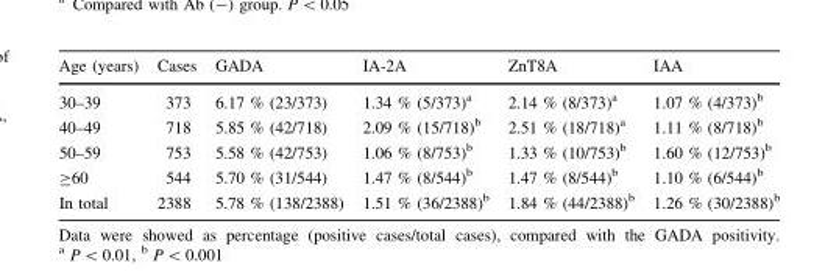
<table><thead><tr><td>Age (years)</td><td>Cases</td><td>GADA</td><td>IA-2A</td><td>ZnT8A</td><td>IAA</td></tr></thead><tbody><tr><td>30–39</td><td>373</td><td>6.17 % (23/373)</td><td>1.34 % (5/373)<sup>a</sup></td><td>2.14 % (8/373)<sup>a</sup></td><td>1.07 % (4/373)<sup>b</sup></td></tr><tr><td>40–49</td><td>718</td><td>5.85 % (42/718)</td><td>2.09 % (15/718)<sup>b</sup></td><td>2.51 % (18/718)<sup>a</sup></td><td>1.11 % (8/718)<sup>b</sup></td></tr><tr><td>50–59</td><td>753</td><td>5.58 % (42/753)</td><td>1.06 % (8/753)<sup>b</sup></td><td>1.33 % (10/753)<sup>b</sup></td><td>1.60 % (12/753)<sup>b</sup></td></tr><tr><td>≥60</td><td>544</td><td>5.70 % (31/544)</td><td>1.47 % (8/544)<sup>b</sup></td><td>1.47 % (8/544)<sup>b</sup></td><td>1.10 % (6/544)<sup>b</sup></td></tr><tr><td>In total</td><td>2388</td><td>5.78 % (138/2388)</td><td>1.51 % (36/2388)<sup>b</sup></td><td>1.84 % (44/2388)<sup>b</sup></td><td>1.26 % (30/2388)<sup>b</sup></td></tr></tbody></table>